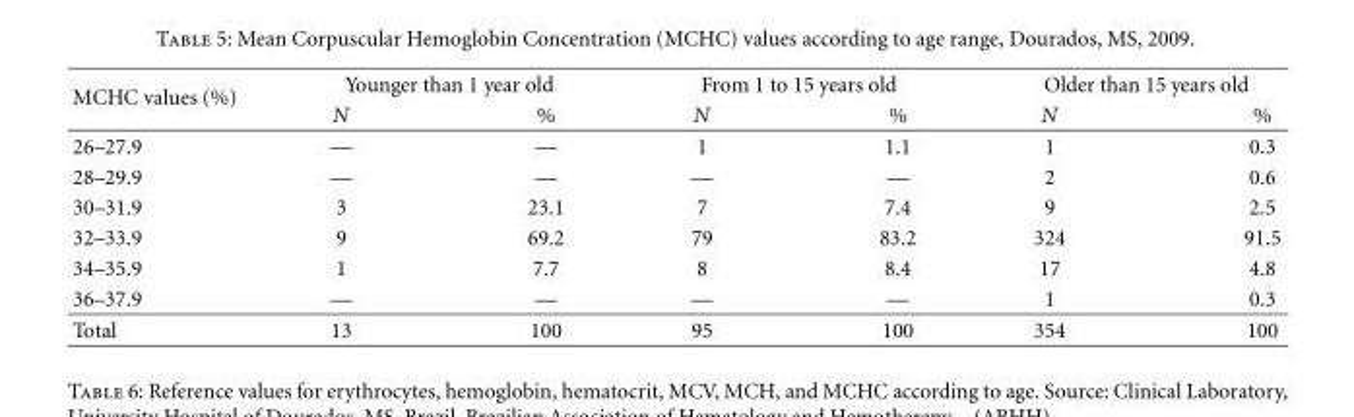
<table><thead><tr><td rowspan="2">MCHC values (%)</td><td colspan="2">Younger than 1 year old</td><td colspan="2">From 1 to 15 years old</td><td colspan="2">Older than 15 years old</td></tr><tr><td>N</td><td>%</td><td>N</td><td>%</td><td>N</td><td>%</td></tr></thead><tbody><tr><td>26–27.9</td><td>—</td><td>—</td><td>1</td><td>1.1</td><td>1</td><td>0.3</td></tr><tr><td>28–29.9</td><td>—</td><td>—</td><td>—</td><td>—</td><td>2</td><td>0.6</td></tr><tr><td>30–31.9</td><td>3</td><td>23.1</td><td>7</td><td>7.4</td><td>9</td><td>2.5</td></tr><tr><td>32–33.9</td><td>9</td><td>69.2</td><td>79</td><td>83.2</td><td>324</td><td>91.5</td></tr><tr><td>34–35.9</td><td>1</td><td>7.7</td><td>8</td><td>8.4</td><td>17</td><td>4.8</td></tr><tr><td>36–37.9</td><td>—</td><td>—</td><td>—</td><td>—</td><td>1</td><td>0.3</td></tr><tr><td>Total</td><td>13</td><td>100</td><td>95</td><td>100</td><td>354</td><td>100</td></tr></tbody></table>